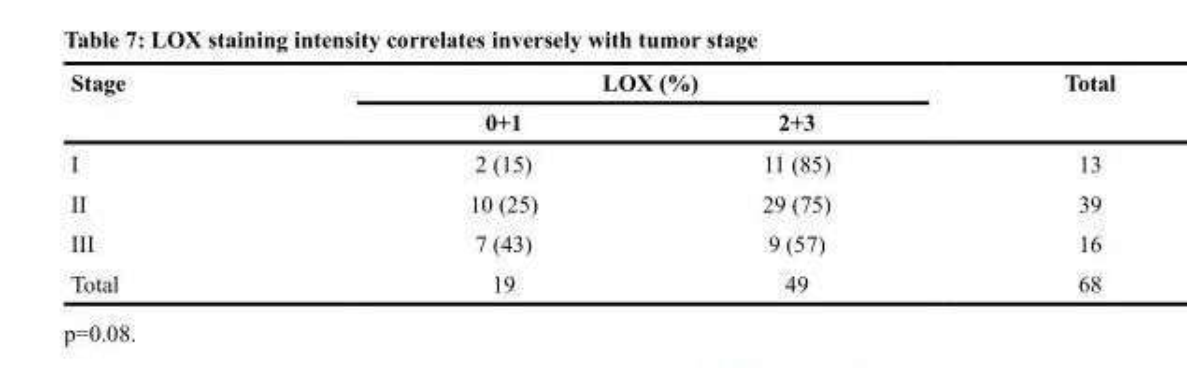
<table><thead><tr><td rowspan="2">Stage</td><td colspan="2">LOX (%)</td><td rowspan="2">Total</td></tr><tr><td>0+1</td><td>2+3</td></tr></thead><tbody><tr><td>I</td><td>2 (15)</td><td>11 (85)</td><td>13</td></tr><tr><td>II</td><td>10 (25)</td><td>29 (75)</td><td>39</td></tr><tr><td>III</td><td>7 (43)</td><td>9 (57)</td><td>16</td></tr><tr><td>Total</td><td>19</td><td>49</td><td>68</td></tr></tbody></table>